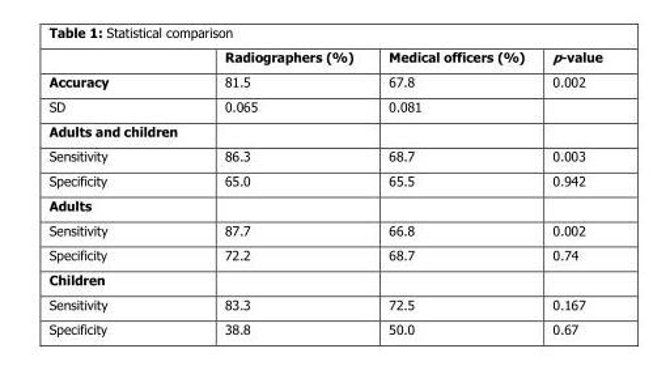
<table><thead><tr><td></td><td>Radiographers (%)</td><td>Medical officers (%)</td><td>p-value</td></tr></thead><tbody><tr><td>Accuracy</td><td>81.5</td><td>67.8</td><td>0.002</td></tr><tr><td>SD</td><td>0.065</td><td>0.081</td><td></td></tr><tr><td colspan="4">Adults and children</td></tr><tr><td>Sensitivity</td><td>86.3</td><td>68.7</td><td>0.003</td></tr><tr><td>Specificity</td><td>65.0</td><td>65.5</td><td>0.942</td></tr><tr><td colspan="4">Adults</td></tr><tr><td>Sensitivity</td><td>87.7</td><td>66.8</td><td>0.002</td></tr><tr><td>Specificity</td><td>72.2</td><td>68.7</td><td>0.74</td></tr><tr><td colspan="4">Children</td></tr><tr><td>Sensitivity</td><td>83.3</td><td>72.5</td><td>0.167</td></tr><tr><td>Specificity</td><td>38.8</td><td>50.0</td><td>0.67</td></tr></tbody></table>